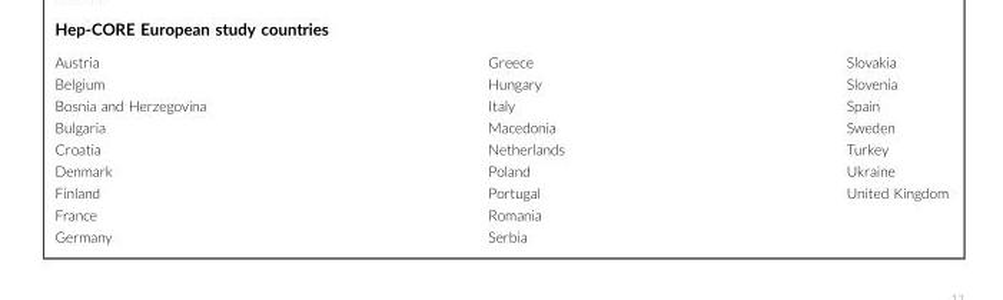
<table><tbody><tr><td>Austria</td><td>Greece</td><td>Slovakia</td></tr><tr><td>Belgium</td><td>Hungary</td><td>Slovenia</td></tr><tr><td>Bosnia and Herzegovina</td><td>Italy</td><td>Spain</td></tr><tr><td>Bulgaria</td><td>Macedonia</td><td>Sweden</td></tr><tr><td>Croatia</td><td>Netherlands</td><td>Turkey</td></tr><tr><td>Denmark</td><td>Poland</td><td>Ukraine</td></tr><tr><td>Finland</td><td>Portugal</td><td>United Kingdom</td></tr><tr><td>France</td><td>Romania</td><td></td></tr><tr><td>Germany</td><td>Serbia</td><td></td></tr></tbody></table>